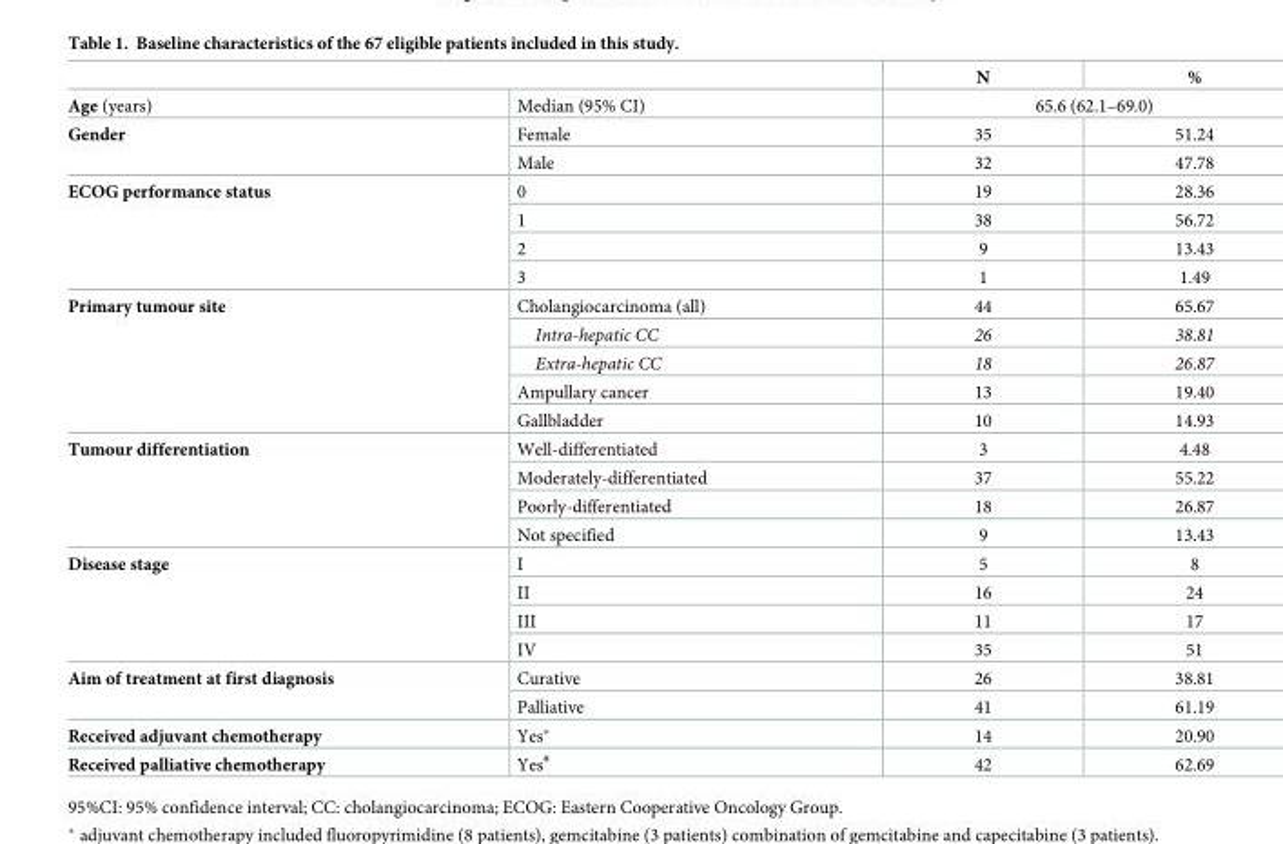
<table><thead><tr><td></td><td></td><td>N</td><td>%</td></tr></thead><tbody><tr><td>Age (years)</td><td>Median (95% CI)</td><td colspan="2">65.6 (62.1–69.0)</td></tr><tr><td rowspan="2">Gender</td><td>Female</td><td>35</td><td>51.24</td></tr><tr><td>Male</td><td>32</td><td>47.78</td></tr><tr><td rowspan="4">ECOG performance status</td><td>0</td><td>19</td><td>28.36</td></tr><tr><td>1</td><td>38</td><td>56.72</td></tr><tr><td>2</td><td>9</td><td>13.43</td></tr><tr><td>3</td><td>1</td><td>1.49</td></tr><tr><td rowspan="5">Primary tumour site</td><td>Cholangiocarcinoma (all)</td><td>44</td><td>65.67</td></tr><tr><td>Intra-hepatic CC</td><td>26</td><td>38.81</td></tr><tr><td>Extra-hepatic CC</td><td>18</td><td>26.87</td></tr><tr><td>Ampullary cancer</td><td>13</td><td>19.40</td></tr><tr><td>Gallbladder</td><td>10</td><td>14.93</td></tr><tr><td rowspan="4">Tumour differentiation</td><td>Well-differentiated</td><td>3</td><td>4.48</td></tr><tr><td>Moderately-differentiated</td><td>37</td><td>55.22</td></tr><tr><td>Poorly-differentiated</td><td>18</td><td>26.87</td></tr><tr><td>Not specified</td><td>9</td><td>13.43</td></tr><tr><td rowspan="4">Disease stage</td><td>I</td><td>5</td><td>8</td></tr><tr><td>II</td><td>16</td><td>24</td></tr><tr><td>III</td><td>11</td><td>17</td></tr><tr><td>IV</td><td>35</td><td>51</td></tr><tr><td rowspan="2">Aim of treatment at first diagnosis</td><td>Curative</td><td>26</td><td>38.81</td></tr><tr><td>Palliative</td><td>41</td><td>61.19</td></tr><tr><td>Received adjuvant chemotherapy</td><td>Yes*</td><td>14</td><td>20.90</td></tr><tr><td>Received palliative chemotherapy</td><td>Yes<sup>#</sup></td><td>42</td><td>62.69</td></tr></tbody></table>